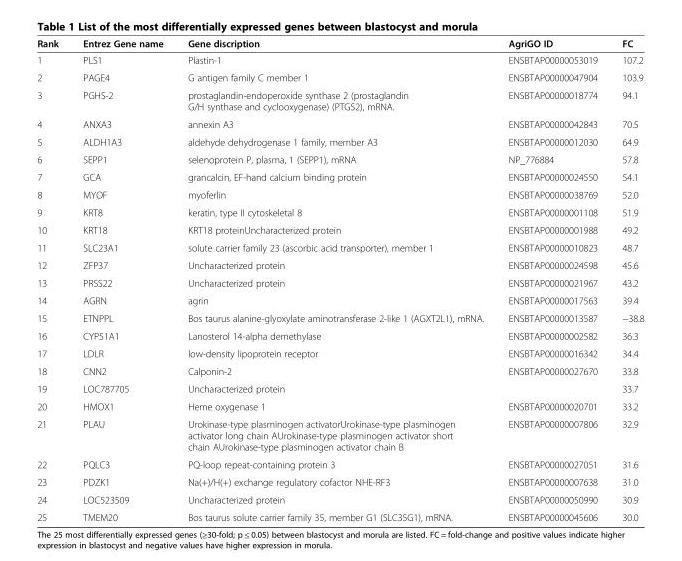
<table><thead><tr><td>Rank</td><td>Entrez Gene name</td><td>Gene discription</td><td>AgriGO ID</td><td>FC</td></tr></thead><tbody><tr><td>1</td><td>PLS1</td><td>Plastin-1</td><td>ENSBTAP00000053019</td><td>107.2</td></tr><tr><td>2</td><td>PAGE4</td><td>G antigen family C member 1</td><td>ENSBTAP00000047904</td><td>103.9</td></tr><tr><td>3</td><td>PGHS-2</td><td>prostaglandin-endoperoxide synthase 2 (prostaglandin G/H synthase and cyclooxygenase) (PTGS2), mRNA.</td><td>ENSBTAP00000018774</td><td>94.1</td></tr><tr><td>4</td><td>ANXA3</td><td>annexin A3</td><td>ENSBTAP00000042843</td><td>70.5</td></tr><tr><td>5</td><td>ALDH1A3</td><td>aldehyde dehydrogenase 1 family, member A3</td><td>ENSBTAP00000012030</td><td>64.9</td></tr><tr><td>6</td><td>SEPP1</td><td>selenoprotein P, plasma, 1 (SEPP1), mRNA</td><td>NP_776884</td><td>57.8</td></tr><tr><td>7</td><td>GCA</td><td>grancalcin, EF-hand calcium binding protein</td><td>ENSBTAP00000024550</td><td>54.1</td></tr><tr><td>8</td><td>MYOF</td><td>myoferlin</td><td>ENSBTAP00000038769</td><td>52.0</td></tr><tr><td>9</td><td>KRT8</td><td>keratin, type II cytoskeletal 8</td><td>ENSBTAP00000001108</td><td>51.9</td></tr><tr><td>10</td><td>KRT18</td><td>KRT18 proteinUncharacterized protein</td><td>ENSBTAP00000001988</td><td>49.2</td></tr><tr><td>11</td><td>SLC23A1</td><td>solute carrier family 23 (ascorbic acid transporter), member 1</td><td>ENSBTAP00000010823</td><td>48.7</td></tr><tr><td>12</td><td>ZFP37</td><td>Uncharacterized protein</td><td>ENSBTAP00000024598</td><td>45.6</td></tr><tr><td>13</td><td>PRSS22</td><td>Uncharacterized protein</td><td>ENSBTAP00000021967</td><td>43.2</td></tr><tr><td>14</td><td>AGRN</td><td>agrin</td><td>ENSBTAP00000017563</td><td>39.4</td></tr><tr><td>15</td><td>ETNPPL</td><td>Bos taurus alanine-glyoxylate aminotransferase 2-like 1 (AGXT2L1), mRNA.</td><td>ENSBTAP00000013587</td><td>−38.8</td></tr><tr><td>16</td><td>CYP51A1</td><td>Lanosterol 14-alpha demethylase</td><td>ENSBTAP00000002582</td><td>36.3</td></tr><tr><td>17</td><td>LDLR</td><td>low-density lipoprotein receptor</td><td>ENSBTAP00000016342</td><td>34.4</td></tr><tr><td>18</td><td>CNN2</td><td>Calponin-2</td><td>ENSBTAP00000027670</td><td>33.8</td></tr><tr><td>19</td><td>LOC787705</td><td>Uncharacterized protein</td><td></td><td>33.7</td></tr><tr><td>20</td><td>HMOX1</td><td>Heme oxygenase 1</td><td>ENSBTAP00000020701</td><td>33.2</td></tr><tr><td>21</td><td>PLAU</td><td>Urokinase-type plasminogen activatorUrokinase-type plasminogen activator long chain AUrokinase-type plasminogen activator short chain AUrokinase-type plasminogen activator chain B</td><td>ENSBTAP00000007806</td><td>32.9</td></tr><tr><td>22</td><td>PQLC3</td><td>PQ-loop repeat-containing protein 3</td><td>ENSBTAP00000027051</td><td>31.6</td></tr><tr><td>23</td><td>PDZK1</td><td>Na(+)/H(+) exchange regulatory cofactor NHE-RF3</td><td>ENSBTAP00000007638</td><td>31.0</td></tr><tr><td>24</td><td>LOC523509</td><td>Uncharacterized protein</td><td>ENSBTAP00000050990</td><td>30.9</td></tr><tr><td>25</td><td>TMEM20</td><td>Bos taurus solute carrier family 35, member G1 (SLC35G1), mRNA.</td><td>ENSBTAP00000045606</td><td>30.0</td></tr></tbody></table>